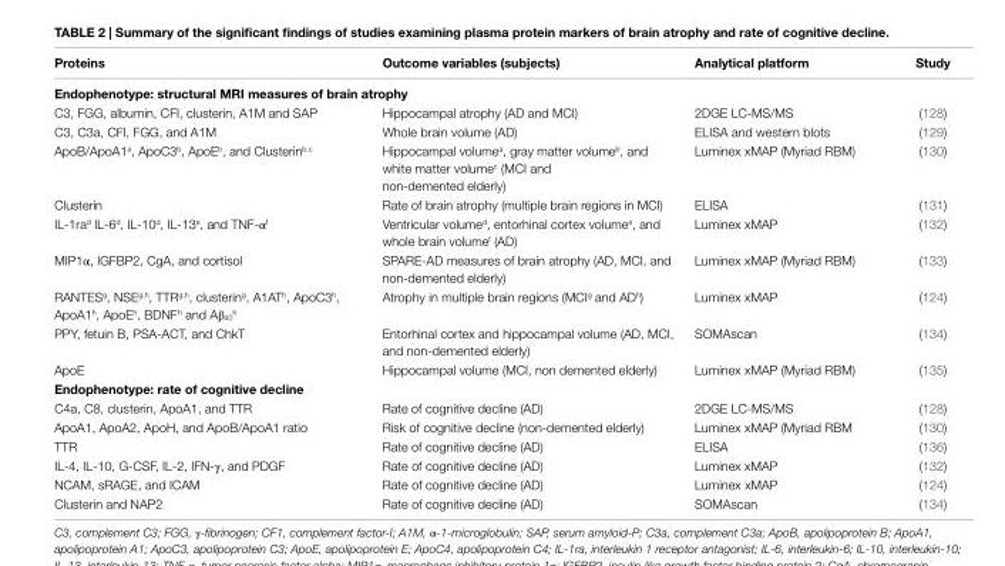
<table><thead><tr><td>Proteins</td><td>Outcome variables (subjects)</td><td>Analytical platform</td><td>Study</td></tr></thead><tbody><tr><td colspan="4">endophenotype: structural MRi measures of brain atrophy</td></tr><tr><td>C3, FGG, albumin, CFI, clusterin, A1M and SAP</td><td>Hippocampal atrophy (AD and MCI)</td><td>2DGE LC-MS/MS</td><td>(128)</td></tr><tr><td>C3, C3a, CFI, FGG, and A1M</td><td>Whole brain volume (AD)</td><td>ELISA and western blots</td><td>(129)</td></tr><tr><td>ApoB/ApoA1<sup>a</sup>, ApoC3<sup>b</sup>, ApoE<sup>b</sup>, and Clusterin<sup>b,c</sup></td><td>Hippocampal volume<sup>a</sup>, gray matter volume<sup>b</sup>, and white matter volume<sup>c</sup> (MCI and non-demented elderly)</td><td>Luminex xMAP (Myriad RBM)</td><td>(130)</td></tr><tr><td>Clusterin</td><td>Rate of brain atrophy (multiple brain regions in MCI)</td><td>ELISA</td><td>(131)</td></tr><tr><td>IL-1ra<sup>d</sup> IL-6<sup>d</sup>, IL-10<sup>d</sup>, IL-13<sup>e</sup>, and TNF-α<sup>f</sup></td><td>Ventricular volume<sup>d</sup>, entorhinal cortex volume<sup>e</sup>, and whole brain volume<sup>f</sup> (AD)</td><td>Luminex xMAP</td><td>(132)</td></tr><tr><td>MIP1α, IGFBP2, CgA, and cortisol</td><td>SPARE-AD measures of brain atrophy (AD, MCI, and non-demented elderly)</td><td>Luminex xMAP (Myriad RBM)</td><td>(133)</td></tr><tr><td>RANTESg, NSEg,h, TTRg,h, clustering, A1ATh, ApoC3h, ApoA1h, ApoEh, BDNF h and Aβ40h</td><td>Atrophy in multiple brain regions (MCI<sup>g</sup> and AD<sup>h</sup>)</td><td>Luminex xMAP</td><td>(124)</td></tr><tr><td>PPY, fetuin B, PSA-ACT, and ChkT</td><td>Entorhinal cortex and hippocampal volume (AD, MCI, and non-demented elderly)</td><td>SOMAscan</td><td>(134)</td></tr><tr><td>ApoE</td><td>Hippocampal volume (MCI, non demented elderly)</td><td>Luminex xMAP (Myriad RBM)</td><td>(135)</td></tr><tr><td colspan="4">endophenotype: rate of cognitive decline</td></tr><tr><td>C4a, C8, clusterin, ApoA1, and TTR</td><td>Rate of cognitive decline (AD)</td><td>2DGE LC-MS/MS</td><td>(128)</td></tr><tr><td>ApoA1, ApoA2, ApoH, and ApoB/ApoA1 ratio</td><td>Risk of cognitive decline (non-demented elderly)</td><td>Luminex xMAP (Myriad RBM</td><td>(130)</td></tr><tr><td>TTR</td><td>Rate of cognitive decline (AD)</td><td>ELISA</td><td>(136)</td></tr><tr><td>IL-4, IL-10, G-CSF, IL-2, IFN-γ, and PDGF</td><td>Rate of cognitive decline (AD)</td><td>Luminex xMAP</td><td>(132)</td></tr><tr><td>NCAM, sRAGE, and ICAM</td><td>Rate of cognitive decline (AD)</td><td>Luminex xMAP</td><td>(124)</td></tr><tr><td>Clusterin and NAP2</td><td>Rate of cognitive decline (AD)</td><td>SOMAscan</td><td>(134)</td></tr></tbody></table>